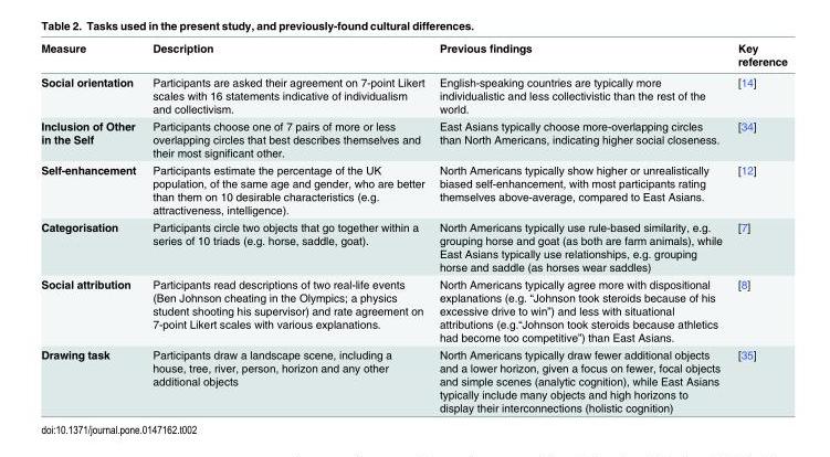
<table><thead><tr><td>Measure</td><td>Description</td><td>Previous findings</td><td>Key reference</td></tr></thead><tbody><tr><td>Social orientation</td><td>Participants are asked their agreement on 7-point Likert scales with 16 statements indicative of individualism and collectivism.</td><td>English-speaking countries are typically more individualistic and less collectivistic than the rest of the world.</td><td>[14]</td></tr><tr><td>Inclusion of Other in the Self</td><td>Participants choose one of 7 pairs of more or less overlapping circles that best describes themselves and their most significant other.</td><td>East Asians typically choose more-overlapping circles than North Americans, indicating higher social closeness.</td><td>[34]</td></tr><tr><td>Self-enhancement</td><td>Participants estimate the percentage of the UK population, of the same age and gender, who are better than them on 10 desirable characteristics (e.g. attractiveness, intelligence).</td><td>North Americans typically show higher or unrealistically biased self-enhancement, with most participants rating themselves above-average, compared to East Asians.</td><td>[12]</td></tr><tr><td>Categorisation</td><td>Participants circle two objects that go together within a series of 10 triads (e.g. horse, saddle, goat).</td><td>North Americans typically use rule-based similarity, e.g. grouping horse and goat (as both are farm animals), while East Asians typically use relationships, e.g. grouping horse and saddle (as horses wear saddles)</td><td>[7]</td></tr><tr><td>Social attribution</td><td>Participants read descriptions of two real-life events (Ben Johnson cheating in the Olympics; a physics student shooting his supervisor) and rate agreement on 7-point Likert scales with various explanations.</td><td>North Americans typically agree more with dispositional explanations (e.g. “Johnson took steroids because of his excessive drive to win”) and less with situational attributions (e.g.“Johnson took steroids because athletics had become too competitive”) than East Asians.</td><td>[8]</td></tr><tr><td>Drawing task</td><td>Participants draw a landscape scene, including a house, tree, river, person, horizon and any other additional objects</td><td>North Americans typically draw fewer additional objects and a lower horizon, given a focus on fewer, focal objects and simple scenes (analytic cognition), while East Asians typically include many objects and high horizons to display their interconnections (holistic cognition)</td><td>[35]</td></tr></tbody></table>